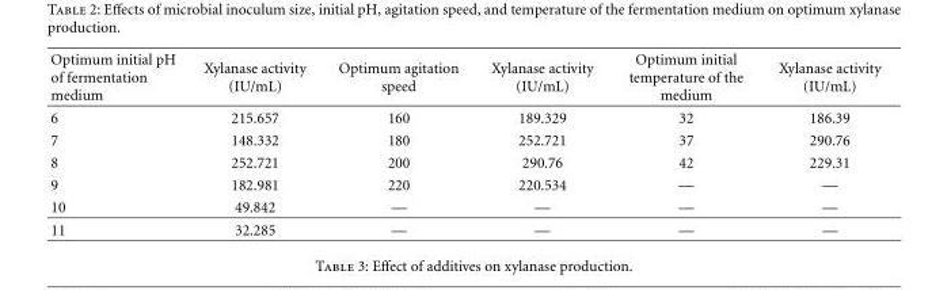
<table><thead><tr><td>Optimum initial pH of fermentation medium</td><td>Xylanase activity (IU/mL)</td><td>Optimum agitation speed</td><td>Xylanase activity (IU/mL)</td><td>Optimum initial temperature of the medium</td><td>Xylanase activity (IU/mL)</td></tr></thead><tbody><tr><td>6</td><td>215.657</td><td>160</td><td>189.329</td><td>32</td><td>186.39</td></tr><tr><td>7</td><td>148.332</td><td>180</td><td>252.721</td><td>37</td><td>290.76</td></tr><tr><td>8</td><td>252.721</td><td>200</td><td>290.76</td><td>42</td><td>229.31</td></tr><tr><td>9</td><td>182.981</td><td>220</td><td>220.534</td><td>—</td><td>—</td></tr><tr><td>10</td><td>49.842</td><td>—</td><td>—</td><td>—</td><td>—</td></tr><tr><td>11</td><td>32.285</td><td>—</td><td>—</td><td>—</td><td>—</td></tr></tbody></table>